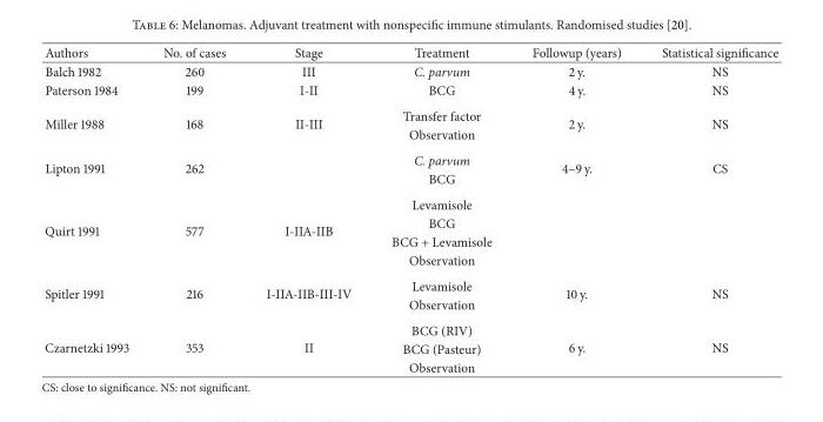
<table><thead><tr><td>Authors</td><td>No. of cases</td><td>Stage</td><td>Treatment</td><td>Followup (years)</td><td>Statistical significance</td></tr></thead><tbody><tr><td>Balch 1982</td><td>260</td><td>III</td><td>C. parvum</td><td>2 y.</td><td>NS</td></tr><tr><td>Paterson 1984</td><td>199</td><td>I-II</td><td>BCG</td><td>4 y.</td><td>NS</td></tr><tr><td rowspan="2">Miller 1988</td><td rowspan="2">168</td><td rowspan="2">II-III</td><td>Transfer factor</td><td rowspan="2">2 y.</td><td rowspan="2">NS</td></tr><tr><td>Observation</td></tr><tr><td rowspan="2">Lipton 1991</td><td rowspan="2">262</td><td rowspan="2"></td><td>C. parvum</td><td rowspan="2">4–9 y.</td><td rowspan="2">CS</td></tr><tr><td>BCG</td></tr><tr><td rowspan="4">Quirt 1991</td><td rowspan="4">577</td><td rowspan="4">I-IIA-IIB</td><td>Levamisole</td><td rowspan="4"></td><td rowspan="4"></td></tr><tr><td>BCG</td></tr><tr><td>BCG + Levamisole</td></tr><tr><td>Observation</td></tr><tr><td rowspan="2">Spitler 1991</td><td rowspan="2">216</td><td rowspan="2">I-IIA-IIB-III-IV</td><td>Levamisole</td><td rowspan="2">10 y.</td><td rowspan="2">NS</td></tr><tr><td>Observation</td></tr><tr><td rowspan="3">Czarnetzki 1993</td><td rowspan="3">353</td><td rowspan="3">II</td><td>BCG (RIV)</td><td rowspan="3">6 y.</td><td rowspan="3">NS</td></tr><tr><td>BCG (Pasteur)</td></tr><tr><td>Observation</td></tr></tbody></table>